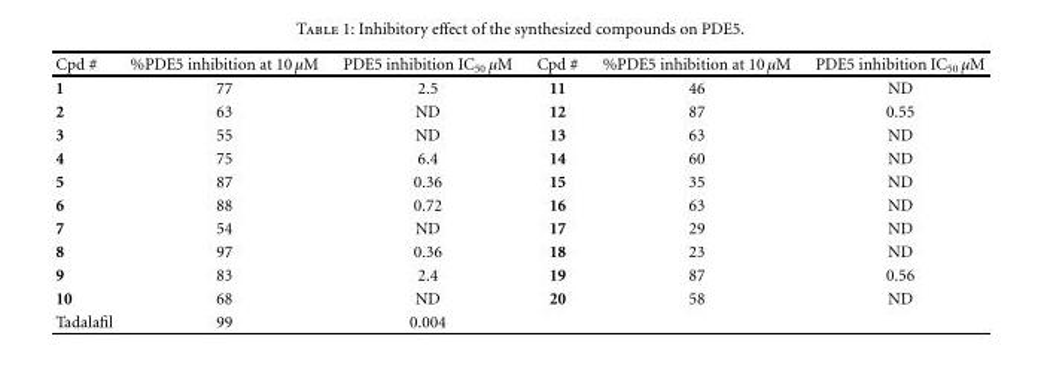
<table><thead><tr><td>Cpd #</td><td>%PDE5 inhibition at 10 μM</td><td>PDE5 inhibition IC<sub>50</sub> μM</td><td>Cpd #</td><td>%PDE5 inhibition at 10 μM</td><td>PDE5 inhibition IC<sub>50</sub> μM</td></tr></thead><tbody><tr><td>1</td><td>77</td><td>2.5</td><td>11</td><td>46</td><td>ND</td></tr><tr><td>2</td><td>63</td><td>ND</td><td>12</td><td>87</td><td>0.55</td></tr><tr><td>3</td><td>55</td><td>ND</td><td>13</td><td>63</td><td>ND</td></tr><tr><td>4</td><td>75</td><td>6.4</td><td>14</td><td>60</td><td>ND</td></tr><tr><td>5</td><td>87</td><td>0.36</td><td>15</td><td>35</td><td>ND</td></tr><tr><td>6</td><td>88</td><td>0.72</td><td>16</td><td>63</td><td>ND</td></tr><tr><td>7</td><td>54</td><td>ND</td><td>17</td><td>29</td><td>ND</td></tr><tr><td>8</td><td>97</td><td>0.36</td><td>18</td><td>23</td><td>ND</td></tr><tr><td>9</td><td>83</td><td>2.4</td><td>19</td><td>87</td><td>0.56</td></tr><tr><td>10</td><td>68</td><td>ND</td><td>20</td><td>58</td><td>ND</td></tr><tr><td>Tadalafil</td><td>99</td><td>0.004</td><td></td><td></td><td></td></tr></tbody></table>